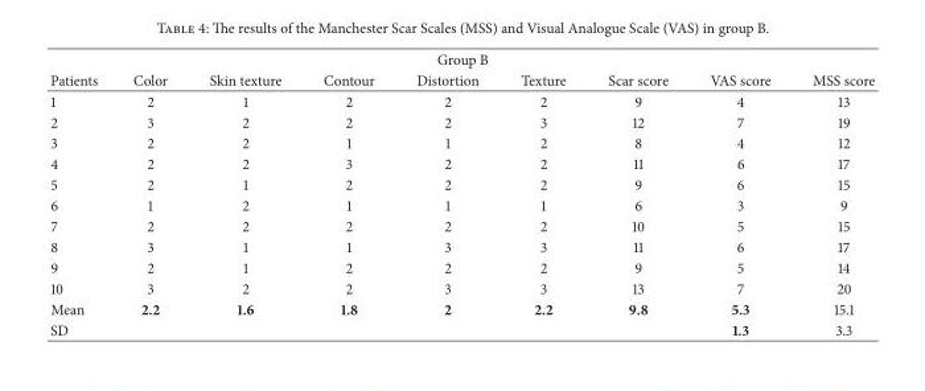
<table><thead><tr><td colspan="9">Group B</td></tr><tr><td>Patients</td><td>Color</td><td>Skin texture</td><td>Contour</td><td>Distortion</td><td>Texture</td><td>Scar score</td><td>VAS score</td><td>MSS score</td></tr></thead><tbody><tr><td>1</td><td>2</td><td>1</td><td>2</td><td>2</td><td>2</td><td>9</td><td>4</td><td>13</td></tr><tr><td>2</td><td>3</td><td>2</td><td>2</td><td>2</td><td>3</td><td>12</td><td>7</td><td>19</td></tr><tr><td>3</td><td>2</td><td>2</td><td>1</td><td>1</td><td>2</td><td>8</td><td>4</td><td>12</td></tr><tr><td>4</td><td>2</td><td>2</td><td>3</td><td>2</td><td>2</td><td>11</td><td>6</td><td>17</td></tr><tr><td>5</td><td>2</td><td>1</td><td>2</td><td>2</td><td>2</td><td>9</td><td>6</td><td>15</td></tr><tr><td>6</td><td>1</td><td>2</td><td>1</td><td>1</td><td>1</td><td>6</td><td>3</td><td>9</td></tr><tr><td>7</td><td>2</td><td>2</td><td>2</td><td>2</td><td>2</td><td>10</td><td>5</td><td>15</td></tr><tr><td>8</td><td>3</td><td>1</td><td>1</td><td>3</td><td>3</td><td>11</td><td>6</td><td>17</td></tr><tr><td>9</td><td>2</td><td>1</td><td>2</td><td>2</td><td>2</td><td>9</td><td>5</td><td>14</td></tr><tr><td>10</td><td>3</td><td>2</td><td>2</td><td>3</td><td>3</td><td>13</td><td>7</td><td>20</td></tr><tr><td>Mean</td><td>2.2</td><td>1.6</td><td>1.8</td><td>2</td><td>2.2</td><td>9.8</td><td>5.3</td><td>15.1</td></tr><tr><td>SD</td><td></td><td></td><td></td><td></td><td></td><td></td><td>1.3</td><td>3.3</td></tr></tbody></table>